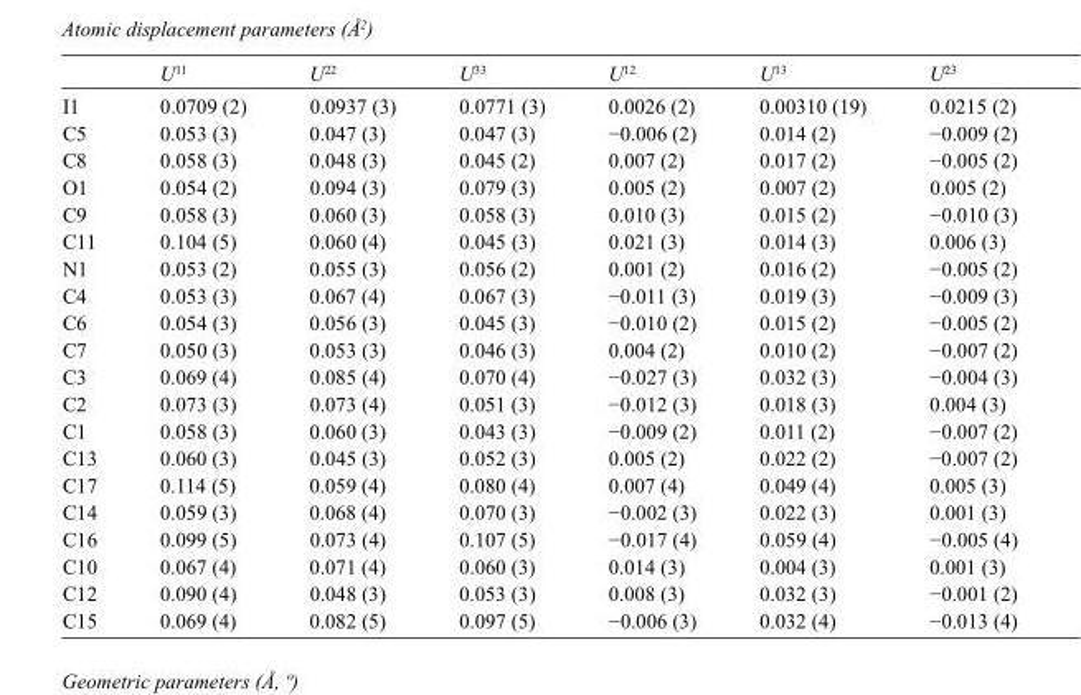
<table><thead><tr><td></td><td>U<sup>11</sup></td><td>U<sup>22</sup></td><td>U<sup>33</sup></td><td>U<sup>12</sup></td><td>U<sup>13</sup></td><td>U<sup>23</sup></td></tr></thead><tbody><tr><td>I1</td><td>0.0709 (2)</td><td>0.0937 (3)</td><td>0.0771 (3)</td><td>0.0026 (2)</td><td>0.00310 (19)</td><td>0.0215 (2)</td></tr><tr><td>C5</td><td>0.053 (3)</td><td>0.047 (3)</td><td>0.047 (3)</td><td>−0.006 (2)</td><td>0.014 (2)</td><td>−0.009 (2)</td></tr><tr><td>C8</td><td>0.058 (3)</td><td>0.048 (3)</td><td>0.045 (2)</td><td>0.007 (2)</td><td>0.017 (2)</td><td>−0.005 (2)</td></tr><tr><td>O1</td><td>0.054 (2)</td><td>0.094 (3)</td><td>0.079 (3)</td><td>0.005 (2)</td><td>0.007 (2)</td><td>0.005 (2)</td></tr><tr><td>C9</td><td>0.058 (3)</td><td>0.060 (3)</td><td>0.058 (3)</td><td>0.010 (3)</td><td>0.015 (2)</td><td>−0.010 (3)</td></tr><tr><td>C11</td><td>0.104 (5)</td><td>0.060 (4)</td><td>0.045 (3)</td><td>0.021 (3)</td><td>0.014 (3)</td><td>0.006 (3)</td></tr><tr><td>N1</td><td>0.053 (2)</td><td>0.055 (3)</td><td>0.056 (2)</td><td>0.001 (2)</td><td>0.016 (2)</td><td>−0.005 (2)</td></tr><tr><td>C4</td><td>0.053 (3)</td><td>0.067 (4)</td><td>0.067 (3)</td><td>−0.011 (3)</td><td>0.019 (3)</td><td>−0.009 (3)</td></tr><tr><td>C6</td><td>0.054 (3)</td><td>0.056 (3)</td><td>0.045 (3)</td><td>−0.010 (2)</td><td>0.015 (2)</td><td>−0.005 (2)</td></tr><tr><td>C7</td><td>0.050 (3)</td><td>0.053 (3)</td><td>0.046 (3)</td><td>0.004 (2)</td><td>0.010 (2)</td><td>−0.007 (2)</td></tr><tr><td>C3</td><td>0.069 (4)</td><td>0.085 (4)</td><td>0.070 (4)</td><td>−0.027 (3)</td><td>0.032 (3)</td><td>−0.004 (3)</td></tr><tr><td>C2</td><td>0.073 (3)</td><td>0.073 (4)</td><td>0.051 (3)</td><td>−0.012 (3)</td><td>0.018 (3)</td><td>0.004 (3)</td></tr><tr><td>C1</td><td>0.058 (3)</td><td>0.060 (3)</td><td>0.043 (3)</td><td>−0.009 (2)</td><td>0.011 (2)</td><td>−0.007 (2)</td></tr><tr><td>C13</td><td>0.060 (3)</td><td>0.045 (3)</td><td>0.052 (3)</td><td>0.005 (2)</td><td>0.022 (2)</td><td>−0.007 (2)</td></tr><tr><td>C17</td><td>0.114 (5)</td><td>0.059 (4)</td><td>0.080 (4)</td><td>0.007 (4)</td><td>0.049 (4)</td><td>0.005 (3)</td></tr><tr><td>C14</td><td>0.059 (3)</td><td>0.068 (4)</td><td>0.070 (3)</td><td>−0.002 (3)</td><td>0.022 (3)</td><td>0.001 (3)</td></tr><tr><td>C16</td><td>0.099 (5)</td><td>0.073 (4)</td><td>0.107 (5)</td><td>−0.017 (4)</td><td>0.059 (4)</td><td>−0.005 (4)</td></tr><tr><td>C10</td><td>0.067 (4)</td><td>0.071 (4)</td><td>0.060 (3)</td><td>0.014 (3)</td><td>0.004 (3)</td><td>0.001 (3)</td></tr><tr><td>C12</td><td>0.090 (4)</td><td>0.048 (3)</td><td>0.053 (3)</td><td>0.008 (3)</td><td>0.032 (3)</td><td>−0.001 (2)</td></tr><tr><td>C15</td><td>0.069 (4)</td><td>0.082 (5)</td><td>0.097 (5)</td><td>−0.006 (3)</td><td>0.032 (4)</td><td>−0.013 (4)</td></tr></tbody></table>